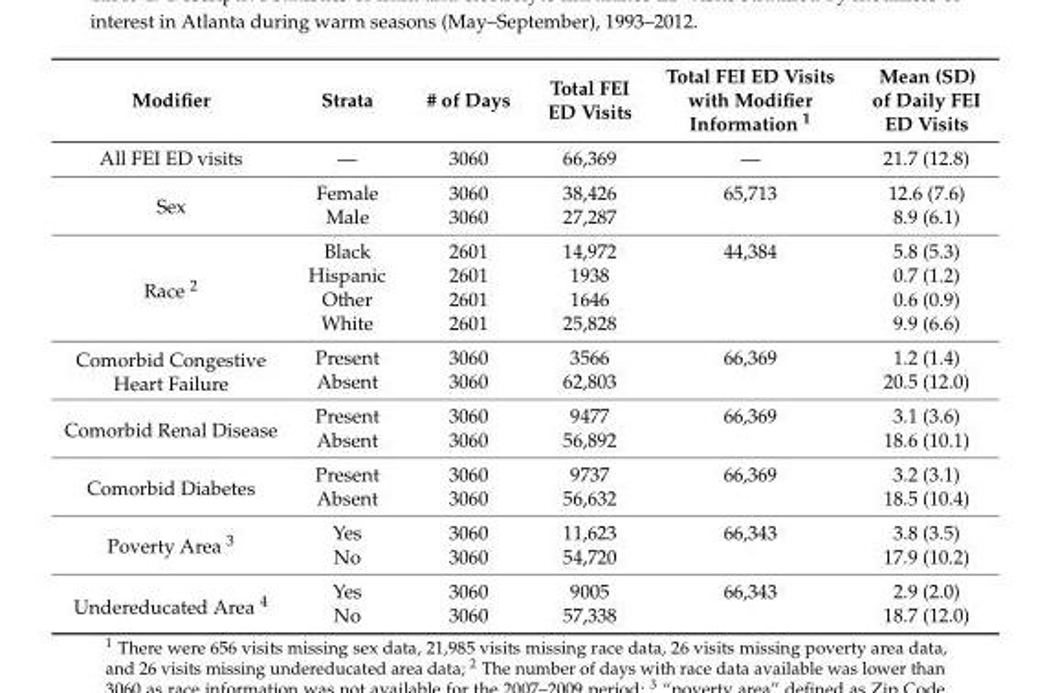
<table><thead><tr><td>Modifier</td><td>Strata</td><td># of Days</td><td>Total FEI ED Visits</td><td>Total FEI ED Visits with Modifier Information <sup>1</sup></td><td>Mean (SD) of Daily FEI ED Visits</td></tr></thead><tbody><tr><td>All FEI ED visits</td><td>—</td><td>3060</td><td>66,369</td><td>—</td><td>21.7 (12.8)</td></tr><tr><td rowspan="2">Sex</td><td>Female</td><td>3060</td><td>38,426</td><td>65,713</td><td>12.6 (7.6)</td></tr><tr><td>Male</td><td>3060</td><td>27,287</td><td></td><td>8.9 (6.1)</td></tr><tr><td rowspan="4">Race <sup>2</sup></td><td>Black</td><td>2601</td><td>14,972</td><td>44,384</td><td>5.8 (5.3)</td></tr><tr><td>Hispanic</td><td>2601</td><td>1938</td><td></td><td>0.7 (1.2)</td></tr><tr><td>Other</td><td>2601</td><td>1646</td><td></td><td>0.6 (0.9)</td></tr><tr><td>White</td><td>2601</td><td>25,828</td><td></td><td>9.9 (6.6)</td></tr><tr><td rowspan="2">Comorbid Congestive Heart Failure</td><td>Present</td><td>3060</td><td>3566</td><td>66,369</td><td>1.2 (1.4)</td></tr><tr><td>Absent</td><td>3060</td><td>62,803</td><td></td><td>20.5 (12.0)</td></tr><tr><td rowspan="2">Comorbid Renal Disease</td><td>Present</td><td>3060</td><td>9477</td><td>66,369</td><td>3.1 (3.6)</td></tr><tr><td>Absent</td><td>3060</td><td>56,892</td><td></td><td>18.6 (10.1)</td></tr><tr><td rowspan="2">Comorbid Diabetes</td><td>Present</td><td>3060</td><td>9737</td><td>66,369</td><td>3.2 (3.1)</td></tr><tr><td>Absent</td><td>3060</td><td>56,632</td><td></td><td>18.5 (10.4)</td></tr><tr><td rowspan="2">Poverty Area <sup>3</sup></td><td>Yes</td><td>3060</td><td>11,623</td><td>66,343</td><td>3.8 (3.5)</td></tr><tr><td>No</td><td>3060</td><td>54,720</td><td></td><td>17.9 (10.2)</td></tr><tr><td rowspan="2">Undereducated Area <sup>4</sup></td><td>Yes</td><td>3060</td><td>9005</td><td>66,343</td><td>2.9 (2.0)</td></tr><tr><td>No</td><td>3060</td><td>57,338</td><td></td><td>18.7 (12.0)</td></tr></tbody></table>